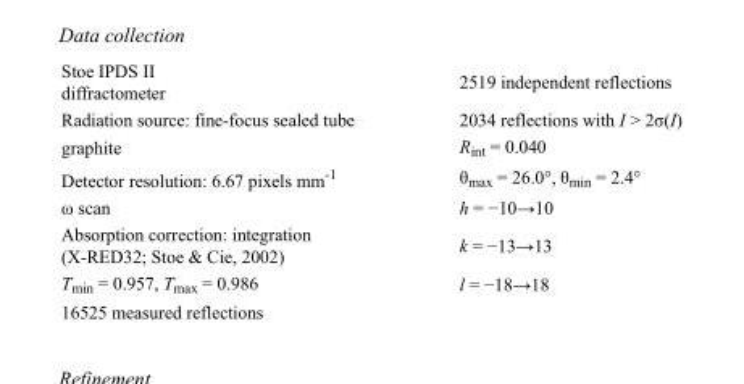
<table><tbody><tr><td>Stoe IPDS II diffractometer</td><td>2519 independent reflections</td></tr><tr><td>Radiation source: fine-focus sealed tube</td><td>2034 reflections with I &gt; 2σ(I)</td></tr><tr><td>graphite</td><td>R<sub>int</sub> = 0.040</td></tr><tr><td>Detector resolution: 6.67 pixels mm<sup>-1</sup></td><td>θ<sub>max</sub> = 26.0°, θ<sub>min</sub> = 2.4°</td></tr><tr><td>ω scan</td><td>h = −10→10</td></tr><tr><td>Absorption correction: integration (X-RED32; Stoe &amp; Cie, 2002)</td><td>k = −13→13</td></tr><tr><td>T<sub>min</sub> = 0.957, T<sub>max</sub> = 0.986</td><td>l = −18→18</td></tr><tr><td>16525 measured reflections</td><td></td></tr></tbody></table>